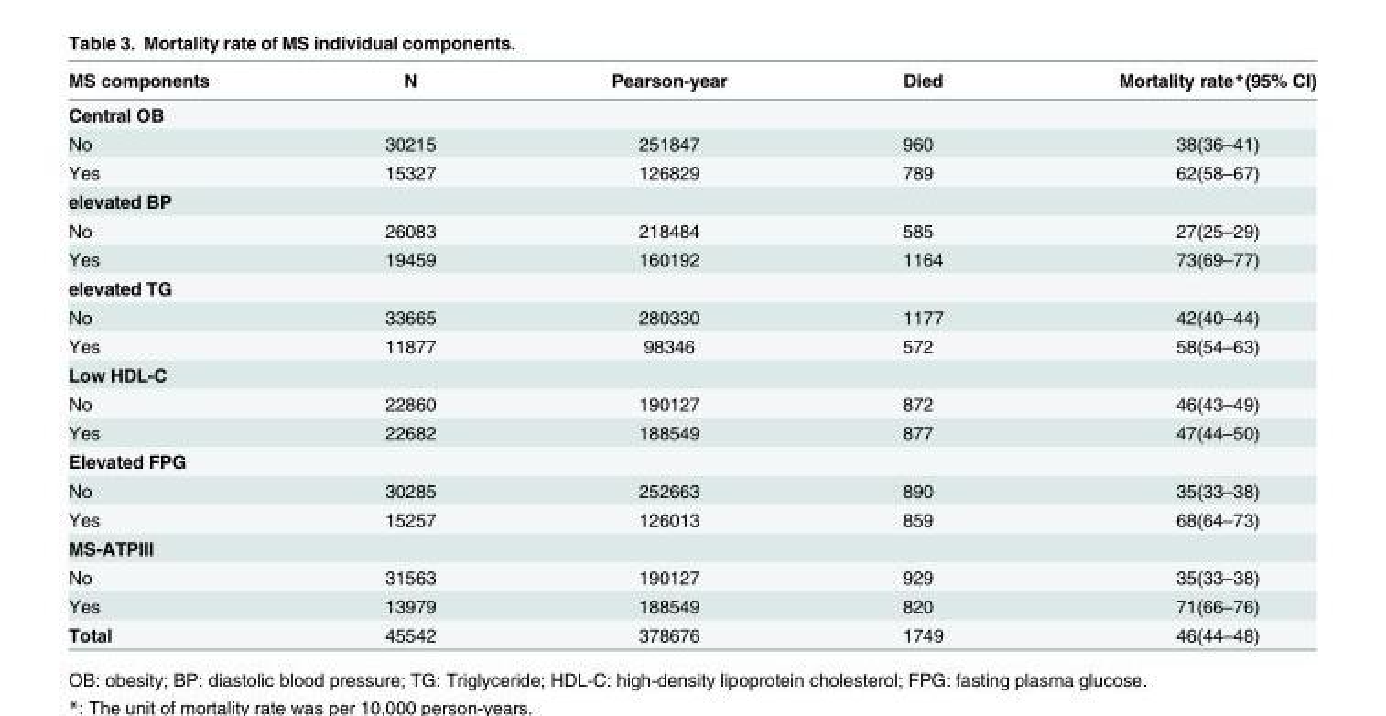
<table><thead><tr><td>MS components</td><td>N</td><td>Pearson-year</td><td>Died</td><td>Mortality rate*(95% CI)</td></tr></thead><tbody><tr><td colspan="5">Central OB</td></tr><tr><td>No</td><td>30215</td><td>251847</td><td>960</td><td>38(36–41)</td></tr><tr><td>Yes</td><td>15327</td><td>126829</td><td>789</td><td>62(58–67)</td></tr><tr><td colspan="5">elevated BP</td></tr><tr><td>No</td><td>26083</td><td>218484</td><td>585</td><td>27(25–29)</td></tr><tr><td>Yes</td><td>19459</td><td>160192</td><td>1164</td><td>73(69–77)</td></tr><tr><td colspan="5">elevated TG</td></tr><tr><td>No</td><td>33665</td><td>280330</td><td>1177</td><td>42(40–44)</td></tr><tr><td>Yes</td><td>11877</td><td>98346</td><td>572</td><td>58(54–63)</td></tr><tr><td colspan="5">Low HDL-C</td></tr><tr><td>No</td><td>22860</td><td>190127</td><td>872</td><td>46(43–49)</td></tr><tr><td>Yes</td><td>22682</td><td>188549</td><td>877</td><td>47(44–50)</td></tr><tr><td colspan="5">Elevated FPG</td></tr><tr><td>No</td><td>30285</td><td>252663</td><td>890</td><td>35(33–38)</td></tr><tr><td>Yes</td><td>15257</td><td>126013</td><td>859</td><td>68(64–73)</td></tr><tr><td colspan="5">MS-ATPIII</td></tr><tr><td>No</td><td>31563</td><td>190127</td><td>929</td><td>35(33–38)</td></tr><tr><td>Yes</td><td>13979</td><td>188549</td><td>820</td><td>71(66–76)</td></tr><tr><td>Total</td><td>45542</td><td>378676</td><td>1749</td><td>46(44–48)</td></tr></tbody></table>